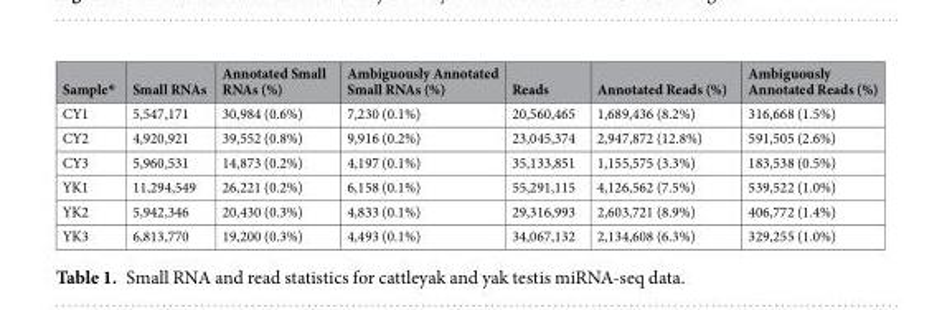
<table><thead><tr><td>Sample*</td><td>Small RNAs</td><td>Annotated Small RNAs (%)</td><td>Ambiguously Annotated Small RNAs (%)</td><td>Reads</td><td>Annotated Reads (%)</td><td>Ambiguously Annotated Reads (%)</td></tr></thead><tbody><tr><td>CY1</td><td>5,547,171</td><td>30,984 (0.6%)</td><td>7,230 (0.1%)</td><td>20,560,465</td><td>1,689,436 (8.2%)</td><td>316,668 (1.5%)</td></tr><tr><td>CY2</td><td>4,920,921</td><td>39,552 (0.8%)</td><td>9,916 (0.2%)</td><td>23,045,374</td><td>2,947,872 (12.8%)</td><td>591,505 (2.6%)</td></tr><tr><td>CY3</td><td>5,960,531</td><td>14,873 (0.2%)</td><td>4,197 (0.1%)</td><td>35,133,851</td><td>1,155,575 (3.3%)</td><td>183,538 (0.5%)</td></tr><tr><td>YK1</td><td>11,294,549</td><td>26,221 (0.2%)</td><td>6,158 (0.1%)</td><td>55,291,115</td><td>4,126,562 (7.5%)</td><td>539,522 (1.0%)</td></tr><tr><td>YK2</td><td>5,942,346</td><td>20,430 (0.3%)</td><td>4,833 (0.1%)</td><td>29,316,993</td><td>2,603,721 (8.9%)</td><td>406,772 (1.4%)</td></tr><tr><td>YK3</td><td>6,813,770</td><td>19,200 (0.3%)</td><td>4,493 (0.1%)</td><td>34,067,132</td><td>2,134,608 (6.3%)</td><td>329,255 (1.0%)</td></tr></tbody></table>